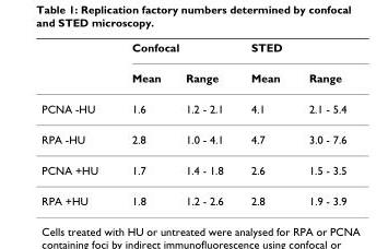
<table><thead><tr><td rowspan="2"></td><td colspan="2">Confocal</td><td colspan="2">STED</td></tr><tr><td>Mean</td><td>Range</td><td>Mean</td><td>Range</td></tr></thead><tbody><tr><td>PCNA -HU</td><td>1.6</td><td>1.2 - 2.1</td><td>4.1</td><td>2.1 - 5.4</td></tr><tr><td>RPA -HU</td><td>2.8</td><td>1.0 - 4.1</td><td>4.7</td><td>3.0 - 7.6</td></tr><tr><td>PCNA +HU</td><td>1.7</td><td>1.4 - 1.8</td><td>2.6</td><td>1.5 - 3.5</td></tr><tr><td>RPA +HU</td><td>1.8</td><td>1.2 - 2.6</td><td>2.8</td><td>1.9 - 3.9</td></tr></tbody></table>